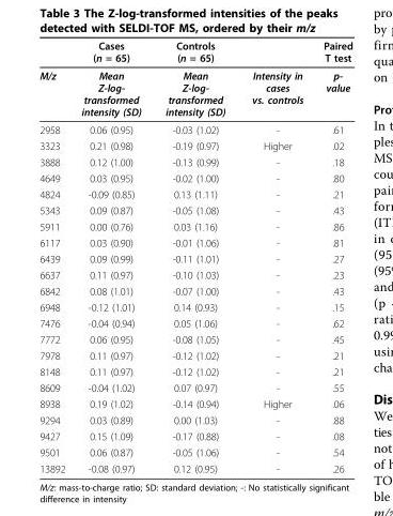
<table><thead><tr><td></td><td>Cases (n = 65)</td><td>Controls (n = 65)</td><td></td><td>Paired T test</td></tr></thead><tbody><tr><td>M/z</td><td>Mean Z-log- transformed intensity (SD)</td><td>Mean Z-log- transformed intensity (SD)</td><td>Intensity in cases vs. controls</td><td>p- value</td></tr><tr><td>2958</td><td>0.06 (0.95)</td><td>-0.03 (1.02)</td><td>-</td><td>.61</td></tr><tr><td>3323</td><td>0.21 (0.98)</td><td>-0.19 (0.97)</td><td>Higher</td><td>.02</td></tr><tr><td>3888</td><td>0.12 (1.00)</td><td>-0.13 (0.99)</td><td>-</td><td>.18</td></tr><tr><td>4649</td><td>0.03 (0.95)</td><td>-0.02 (1.00)</td><td>-</td><td>.80</td></tr><tr><td>4824</td><td>-0.09 (0.85)</td><td>0.13 (1.11)</td><td>-</td><td>.21</td></tr><tr><td>5343</td><td>0.09 (0.87)</td><td>-0.05 (1.08)</td><td>-</td><td>.43</td></tr><tr><td>5911</td><td>0.00 (0.76)</td><td>0.03 (1.16)</td><td>-</td><td>.86</td></tr><tr><td>6117</td><td>0.03 (0.90)</td><td>-0.01 (1.06)</td><td>-</td><td>.81</td></tr><tr><td>6439</td><td>0.09 (0.99)</td><td>-0.11 (1.01)</td><td>-</td><td>.27</td></tr><tr><td>6637</td><td>0.11 (0.97)</td><td>-0.10 (1.03)</td><td>-</td><td>.23</td></tr><tr><td>6842</td><td>0.08 (1.01)</td><td>-0.07 (1.00)</td><td>-</td><td>.43</td></tr><tr><td>6948</td><td>-0.12 (1.01)</td><td>0.14 (0.93)</td><td>-</td><td>.15</td></tr><tr><td>7476</td><td>-0.04 (0.94)</td><td>0.05 (1.06)</td><td>-</td><td>.62</td></tr><tr><td>7772</td><td>0.06 (0.95)</td><td>-0.08 (1.05)</td><td>-</td><td>.45</td></tr><tr><td>7978</td><td>0.11 (0.97)</td><td>-0.12 (1.02)</td><td>-</td><td>.21</td></tr><tr><td>8148</td><td>0.11 (0.97)</td><td>-0.12 (1.02)</td><td>-</td><td>.21</td></tr><tr><td>8609</td><td>-0.04 (1.02)</td><td>0.07 (0.97)</td><td>-</td><td>.55</td></tr><tr><td>8938</td><td>0.19 (1.02)</td><td>-0.14 (0.94)</td><td>Higher</td><td>.06</td></tr><tr><td>9294</td><td>0.03 (0.89)</td><td>0.00 (1.03)</td><td>-</td><td>.88</td></tr><tr><td>9427</td><td>0.15 (1.09)</td><td>-0.17 (0.88)</td><td>-</td><td>.08</td></tr><tr><td>9501</td><td>0.06 (0.87)</td><td>-0.05 (1.06)</td><td>-</td><td>.54</td></tr><tr><td>13892</td><td>-0.08 (0.97)</td><td>0.12 (0.95)</td><td>-</td><td>.26</td></tr></tbody></table>